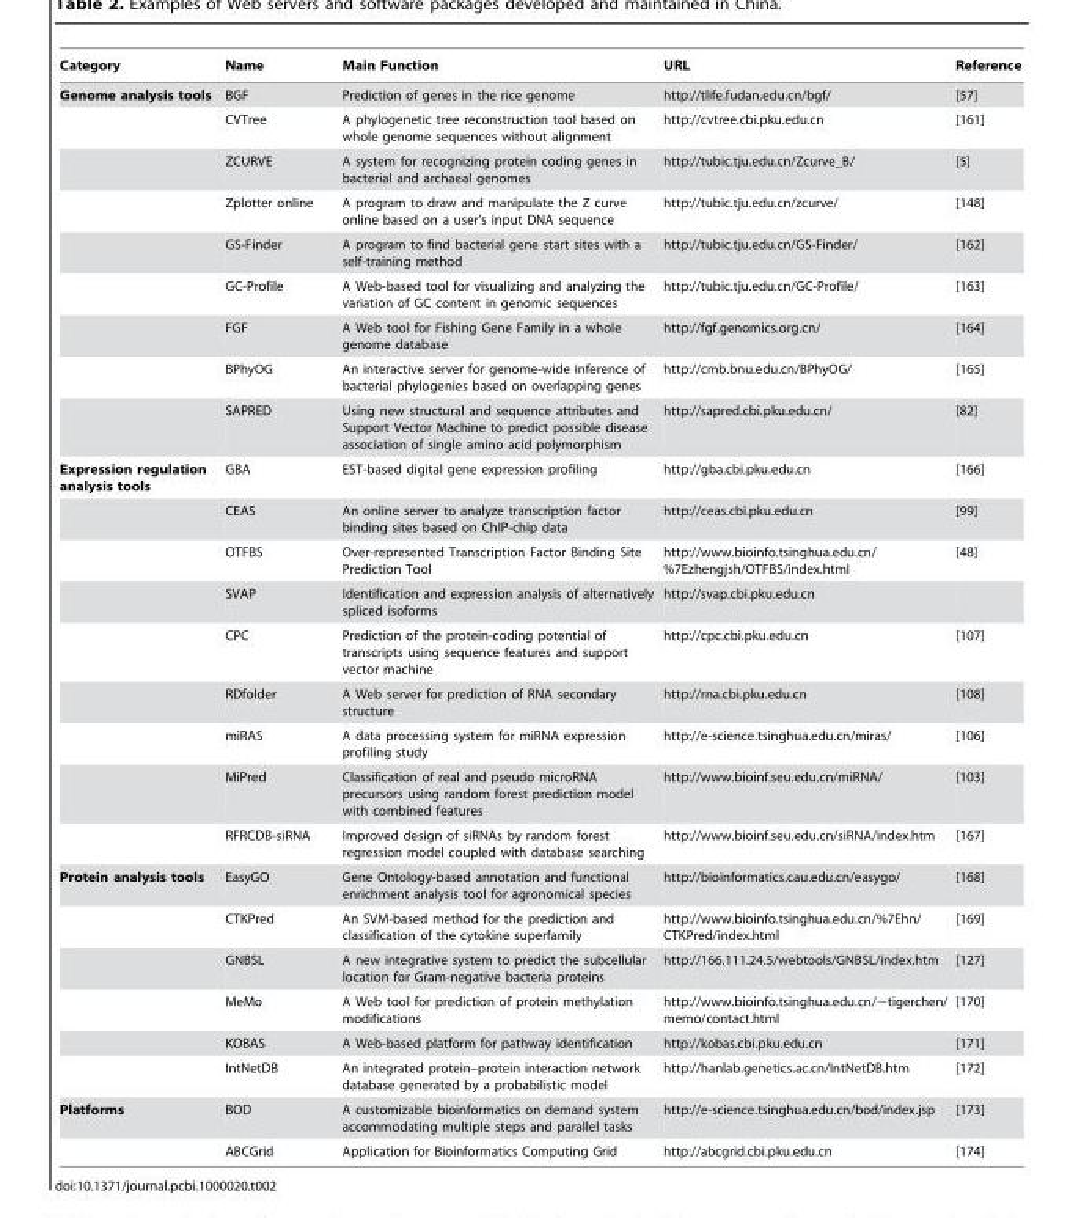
<table><thead><tr><td>Category</td><td>Name</td><td>Main Function</td><td>URL</td><td>Reference</td></tr></thead><tbody><tr><td rowspan="9">Genome analysis tools</td><td>BGF</td><td>Prediction of genes in the rice genome</td><td>http://tlife.fudan.edu.cn/bgf/</td><td>[57]</td></tr><tr><td>CVTree</td><td>A phylogenetic tree reconstruction tool based on whole genome sequences without alignment</td><td>http://cvtree.cbi.pku.edu.cn</td><td>[161]</td></tr><tr><td>ZCURVE</td><td>A system for recognizing protein coding genes in bacterial and archaeal genomes</td><td>http://tubic.tju.edu.cn/Zcurve_B/</td><td>[5]</td></tr><tr><td>Zplotter online</td><td>A program to draw and manipulate the Z curve online based on a user’s input DNA sequence</td><td>http://tubic.tju.edu.cn/zcurve/</td><td>[148]</td></tr><tr><td>GS-Finder</td><td>A program to find bacterial gene start sites with a self-training method</td><td>http://tubic.tju.edu.cn/GS-Finder/</td><td>[162]</td></tr><tr><td>GC-Profile</td><td>A Web-based tool for visualizing and analyzing the variation of GC content in genomic sequences</td><td>http://tubic.tju.edu.cn/GC-Profile/</td><td>[163]</td></tr><tr><td>FGF</td><td>A Web tool for Fishing Gene Family in a whole genome database</td><td>http://fgf.genomics.org.cn/</td><td>[164]</td></tr><tr><td>BPhyOG</td><td>An interactive server for genome-wide inference of bacterial phylogenies based on overlapping genes</td><td>http://cmb.bnu.edu.cn/BPhyOG/</td><td>[165]</td></tr><tr><td>SAPRED</td><td>Using new structural and sequence attributes and Support Vector Machine to predict possible disease association of single amino acid polymorphism</td><td>http://sapred.cbi.pku.edu.cn/</td><td>[82]</td></tr><tr><td rowspan="9">Expression regulation analysis tools</td><td>GBA</td><td>EST-based digital gene expression profiling</td><td>http://gba.cbi.pku.edu.cn</td><td>[166]</td></tr><tr><td>CEAS</td><td>An online server to analyze transcription factor binding sites based on ChIP-chip data</td><td>http://ceas.cbi.pku.edu.cn</td><td>[99]</td></tr><tr><td>OTFBS</td><td>Over-represented Transcription Factor Binding Site Prediction Tool</td><td>http://www.bioinfo.tsinghua.edu.cn/ %7Ezhengjsh/OTFBS/index.html</td><td>[48]</td></tr><tr><td>SVAP</td><td>Identification and expression analysis of alternatively spliced isoforms</td><td>http://svap.cbi.pku.edu.cn</td><td></td></tr><tr><td>CPC</td><td>Prediction of the protein-coding potential of transcripts using sequence features and support vector machine</td><td>http://cpc.cbi.pku.edu.cn</td><td>[107]</td></tr><tr><td>RDfolder</td><td>A Web server for prediction of RNA secondary structure</td><td>http://rna.cbi.pku.edu.cn</td><td>[108]</td></tr><tr><td>miRAS</td><td>A data processing system for miRNA expression profiling study</td><td>http://e-science.tsinghua.edu.cn/miras/</td><td>[106]</td></tr><tr><td>MiPred</td><td>Classification of real and pseudo microRNA precursors using random forest prediction model with combined features</td><td>http://www.bioinf.seu.edu.cn/miRNA/</td><td>[103]</td></tr><tr><td>RFRCDB-siRNA</td><td>Improved design of siRNAs by random forest regression model coupled with database searching</td><td>http://www.bioinf.seu.edu.cn/siRNA/index.htm</td><td>[167]</td></tr><tr><td rowspan="6">Protein analysis tools</td><td>EasyGO</td><td>Gene Ontology-based annotation and functional enrichment analysis tool for agronomical species</td><td>http://bioinformatics.cau.edu.cn/easygo/</td><td>[168]</td></tr><tr><td>CTKPred</td><td>An SVM-based method for the prediction and classification of the cytokine superfamily</td><td>http://www.bioinfo.tsinghua.edu.cn/%7Ehn/ CTKPred/index.html</td><td>[169]</td></tr><tr><td>GNBSL</td><td>A new integrative system to predict the subcellular location for Gram-negative bacteria proteins</td><td>http://166.111.24.5/webtools/GNBSL/index.htm</td><td>[127]</td></tr><tr><td>MeMo</td><td>A Web tool for prediction of protein methylation modifications</td><td>http://www.bioinfo.tsinghua.edu.cn/∼tigerchen/ memo/contact.html</td><td>[170]</td></tr><tr><td>KOBAS</td><td>A Web-based platform for pathway identification</td><td>http://kobas.cbi.pku.edu.cn</td><td>[171]</td></tr><tr><td>IntNetDB</td><td>An integrated protein–protein interaction network database generated by a probabilistic model</td><td>http://hanlab.genetics.ac.cn/IntNetDB.htm</td><td>[172]</td></tr><tr><td rowspan="2">Platforms</td><td>BOD</td><td>A customizable bioinformatics on demand system accommodating multiple steps and parallel tasks</td><td>http://e-science.tsinghua.edu.cn/bod/index.jsp</td><td>[173]</td></tr><tr><td>ABCGrid</td><td>Application for Bioinformatics Computing Grid</td><td>http://abcgrid.cbi.pku.edu.cn</td><td>[174]</td></tr></tbody></table>